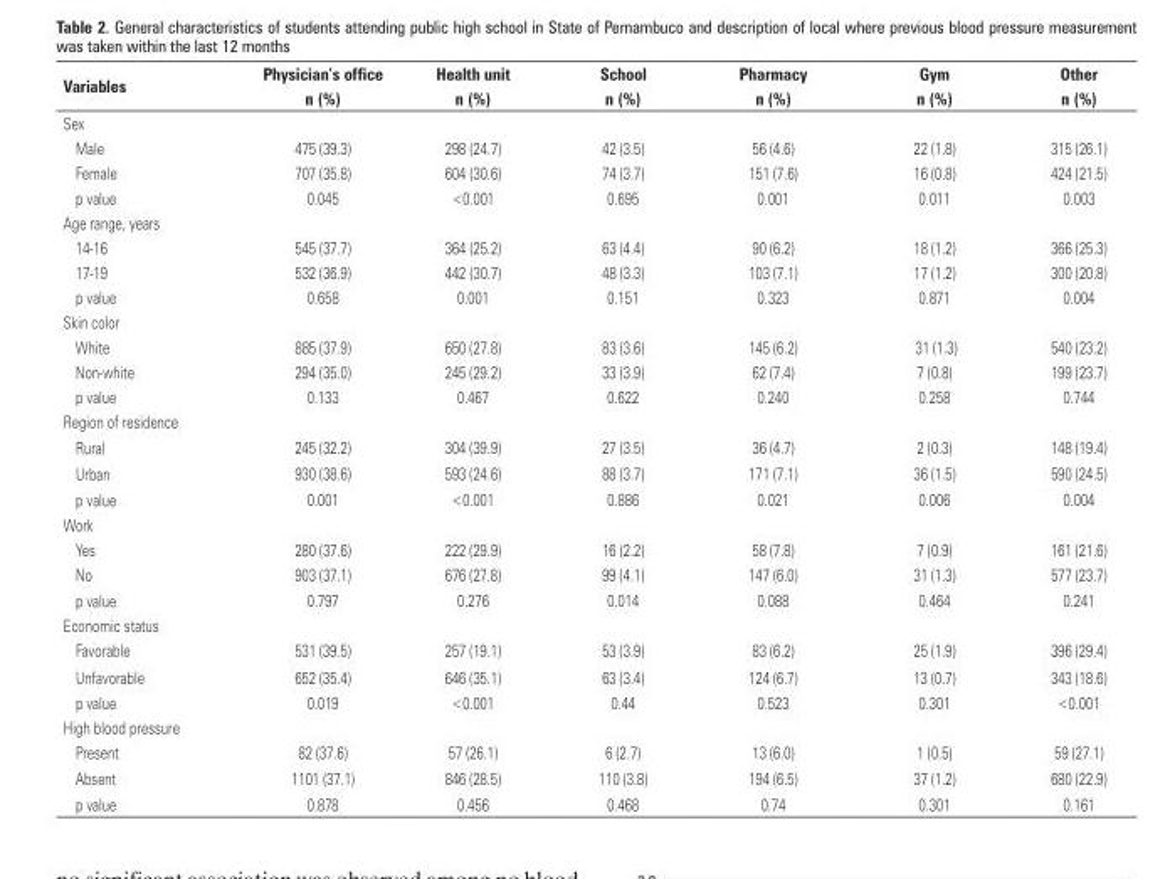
<table><thead><tr><td rowspan="2">Variables</td><td rowspan="2">Physician’s office n (%)</td><td rowspan="2">Health unit n (%)</td><td rowspan="2">School n (%)</td><td rowspan="2">Pharmacy n (%)</td><td rowspan="2">gym n (%)</td><td rowspan="2">other n (%)</td></tr><tr></tr></thead><tbody><tr><td colspan="7">Sex</td></tr><tr><td>Male</td><td>475 (39.3)</td><td>298 (24.7)</td><td>42 (3.5)</td><td>56 (4.6)</td><td>22 (1.8)</td><td>315 (26.1)</td></tr><tr><td>Female</td><td>707 (35.8)</td><td>604 (30.6)</td><td>74 (3.7)</td><td>151 (7.6)</td><td>16 (0.8)</td><td>424 (21.5)</td></tr><tr><td>p value</td><td>0.045</td><td>&lt;0.001</td><td>0.695</td><td>0.001</td><td>0.011</td><td>0.003</td></tr><tr><td colspan="7">Age range, years</td></tr><tr><td>14-16</td><td>545 (37.7)</td><td>364 (25.2)</td><td>63 (4.4)</td><td>90 (6.2)</td><td>18 (1.2)</td><td>366 (25.3)</td></tr><tr><td>17-19</td><td>532 (36.9)</td><td>442 (30.7)</td><td>48 (3.3)</td><td>103 (7.1)</td><td>17 (1.2)</td><td>300 (20.8)</td></tr><tr><td>p value</td><td>0.658</td><td>0.001</td><td>0.151</td><td>0.323</td><td>0.871</td><td>0.004</td></tr><tr><td colspan="7">Skin color</td></tr><tr><td>White</td><td>885 (37.9)</td><td>650 (27.8)</td><td>83 (3.6)</td><td>145 (6.2)</td><td>31 (1.3)</td><td>540 (23.2)</td></tr><tr><td>Non-white</td><td>294 (35.0)</td><td>245 (29.2)</td><td>33 (3.9)</td><td>62 (7.4)</td><td>7 (0.8)</td><td>199 (23.7)</td></tr><tr><td>p value</td><td>0.133</td><td>0.467</td><td>0.622</td><td>0.240</td><td>0.258</td><td>0.744</td></tr><tr><td colspan="7">Region of residence</td></tr><tr><td>Rural</td><td>245 (32.2)</td><td>304 (39.9)</td><td>27 (3.5)</td><td>36 (4.7)</td><td>2 (0.3)</td><td>148 (19.4)</td></tr><tr><td>Urban</td><td>930 (38.6)</td><td>593 (24.6)</td><td>88 (3.7)</td><td>171 (7.1)</td><td>36 (1.5)</td><td>590 (24.5)</td></tr><tr><td>p value</td><td>0.001</td><td>&lt;0.001</td><td>0.886</td><td>0.021</td><td>0.006</td><td>0.004</td></tr><tr><td colspan="7">Work</td></tr><tr><td>Yes</td><td>280 (37.6)</td><td>222 (29.9)</td><td>16 (2.2)</td><td>58 (7.8)</td><td>7 (0.9)</td><td>161 (21.6)</td></tr><tr><td>No</td><td>903 (37.1)</td><td>676 (27.8)</td><td>99 (4.1)</td><td>147 (6.0)</td><td>31 (1.3)</td><td>577 (23.7)</td></tr><tr><td>p value</td><td>0.797</td><td>0.276</td><td>0.014</td><td>0.088</td><td>0.464</td><td>0.241</td></tr><tr><td colspan="7">Economic status</td></tr><tr><td>Favorable</td><td>531 (39.5)</td><td>257 (19.1)</td><td>53 (3.9)</td><td>83 (6.2)</td><td>25 (1.9)</td><td>396 (29.4)</td></tr><tr><td>Unfavorable</td><td>652 (35.4)</td><td>646 (35.1)</td><td>63 (3.4)</td><td>124 (6.7)</td><td>13 (0.7)</td><td>343 (18.6)</td></tr><tr><td>p value</td><td>0.019</td><td>&lt;0.001</td><td>0.44</td><td>0.523</td><td>0.301</td><td>&lt;0.001</td></tr><tr><td colspan="7">High blood pressure</td></tr><tr><td>Present</td><td>82 (37.6)</td><td>57 (26.1)</td><td>6 (2.7)</td><td>13 (6.0)</td><td>1 (0.5)</td><td>59 (27.1)</td></tr><tr><td>Absent</td><td>1101 (37.1)</td><td>846 (28.5)</td><td>110 (3.8)</td><td>194 (6.5)</td><td>37 (1.2)</td><td>680 (22.9)</td></tr><tr><td>p value</td><td>0.878</td><td>0.456</td><td>0.468</td><td>0.74</td><td>0.301</td><td>0.161</td></tr></tbody></table>